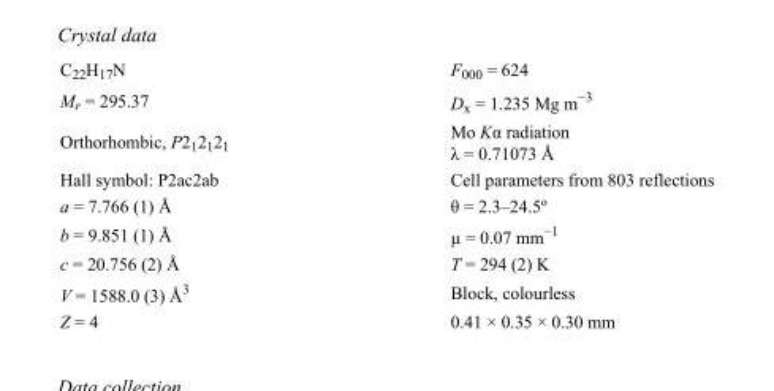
<table><tbody><tr><td>C<sub>22</sub>H<sub>17</sub>N</td><td>F<sub>000</sub> = 624</td></tr><tr><td>M<sub>r</sub> = 295.37</td><td>D<sub>x</sub> = 1.235 Mg m<sup>−3</sup></td></tr><tr><td>Orthorhombic, P2<sub>1</sub>2<sub>1</sub>2<sub>1</sub></td><td>Mo Kα radiation λ = 0.71073 Å</td></tr><tr><td>Hall symbol: P2ac2ab</td><td>Cell parameters from 803 reflections</td></tr><tr><td>a = 7.766 (1) Å</td><td>θ = 2.3–24.5º</td></tr><tr><td>b = 9.851 (1) Å</td><td>µ = 0.07 mm<sup>−1</sup></td></tr><tr><td>c = 20.756 (2) Å</td><td>T = 294 (2) K</td></tr><tr><td>V = 1588.0 (3) Å<sup>3</sup></td><td>Block, colourless</td></tr><tr><td>Z = 4</td><td>0.41 × 0.35 × 0.30 mm</td></tr></tbody></table>